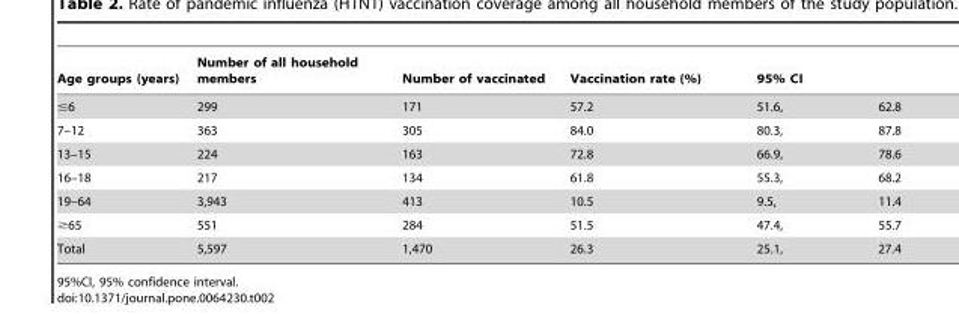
<table><thead><tr><td rowspan="2">Age groups (years) ≤6</td><td rowspan="2">Number of all household members 299</td><td rowspan="2">Number of vaccinated 171</td><td rowspan="2">Vaccination rate (%) 57.2</td><td colspan="2">95% CI</td></tr><tr><td>51.6,</td><td>62.8</td></tr></thead><tbody><tr><td>7–12</td><td>363</td><td>305</td><td>84.0</td><td>80.3,</td><td>87.8</td></tr><tr><td>13–15</td><td>224</td><td>163</td><td>72.8</td><td>66.9,</td><td>78.6</td></tr><tr><td>16–18</td><td>217</td><td>134</td><td>61.8</td><td>55.3,</td><td>68.2</td></tr><tr><td>19–64</td><td>3,943</td><td>413</td><td>10.5</td><td>9.5,</td><td>11.4</td></tr><tr><td>≥65</td><td>551</td><td>284</td><td>51.5</td><td>47.4,</td><td>55.7</td></tr><tr><td>Total</td><td>5,597</td><td>1,470</td><td>26.3</td><td>25.1,</td><td>27.4</td></tr></tbody></table>